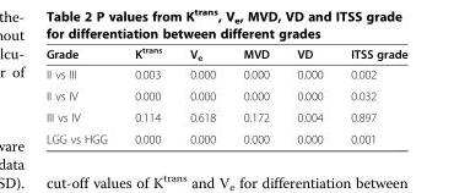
<table><thead><tr><td>Grade</td><td>K<sup>trans</sup></td><td>V<sub>e</sub></td><td>MVD</td><td>VD</td><td>ITSS grade</td></tr></thead><tbody><tr><td>II vs III</td><td>0.003</td><td>0.000</td><td>0.000</td><td>0.000</td><td>0.002</td></tr><tr><td>II vs IV</td><td>0.000</td><td>0.000</td><td>0.000</td><td>0.000</td><td>0.032</td></tr><tr><td>III vs IV</td><td>0.114</td><td>0.618</td><td>0.172</td><td>0.004</td><td>0.897</td></tr><tr><td>LGG vs HGG</td><td>0.000</td><td>0.000</td><td>0.000</td><td>0.000</td><td>0.001</td></tr></tbody></table>